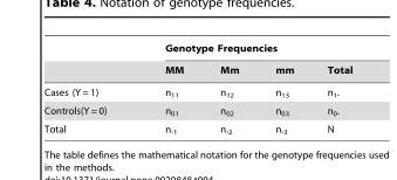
<table><thead><tr><td rowspan="2"></td><td colspan="4">Genotype Frequencies</td></tr><tr><td>MM</td><td>Mm</td><td>mm</td><td>Total</td></tr></thead><tbody><tr><td>Cases (Y = 1)</td><td>n<sub>11</sub></td><td>n<sub>12</sub></td><td>n<sub>13</sub></td><td>n<sub>1</sub>.</td></tr><tr><td>Controls(Y = 0)</td><td>n<sub>01</sub></td><td>n<sub>02</sub></td><td>n<sub>03</sub></td><td>n<sub>0</sub>.</td></tr><tr><td>Total</td><td>n.<sub>1</sub></td><td>n.<sub>2</sub></td><td>n.<sub>3</sub></td><td>N</td></tr></tbody></table>